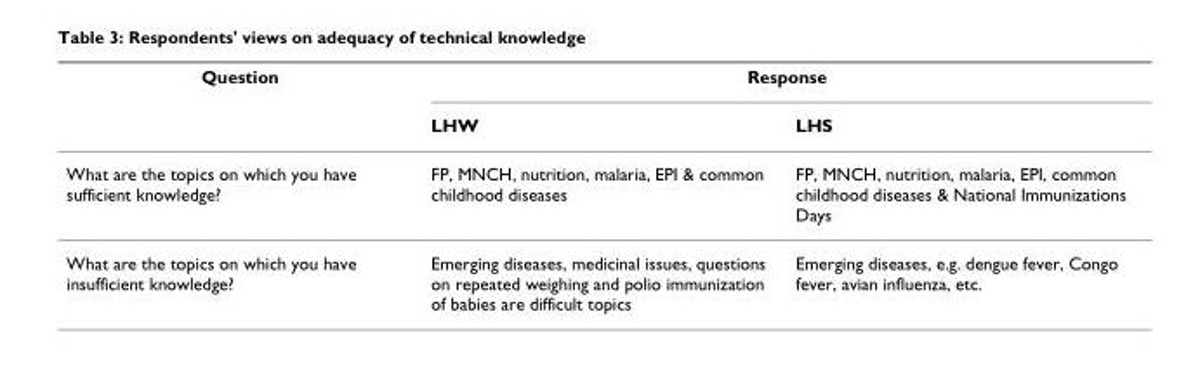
<table><thead><tr><td rowspan="2">Question</td><td colspan="2">Response</td></tr><tr><td>LHW</td><td>LHS</td></tr></thead><tbody><tr><td>What are the topics on which you have sufficient knowledge?</td><td>FP, MNCH, nutrition, malaria, EPI &amp; common childhood diseases</td><td>FP, MNCH, nutrition, malaria, EPI, common childhood diseases &amp; National Immunizations Days</td></tr><tr><td>What are the topics on which you have insufficient knowledge?</td><td>Emerging diseases, medicinal issues, questions on repeated weighing and polio immunization of babies are difficult topics</td><td>Emerging diseases, e.g. dengue fever, Congo fever, avian influenza, etc.</td></tr></tbody></table>